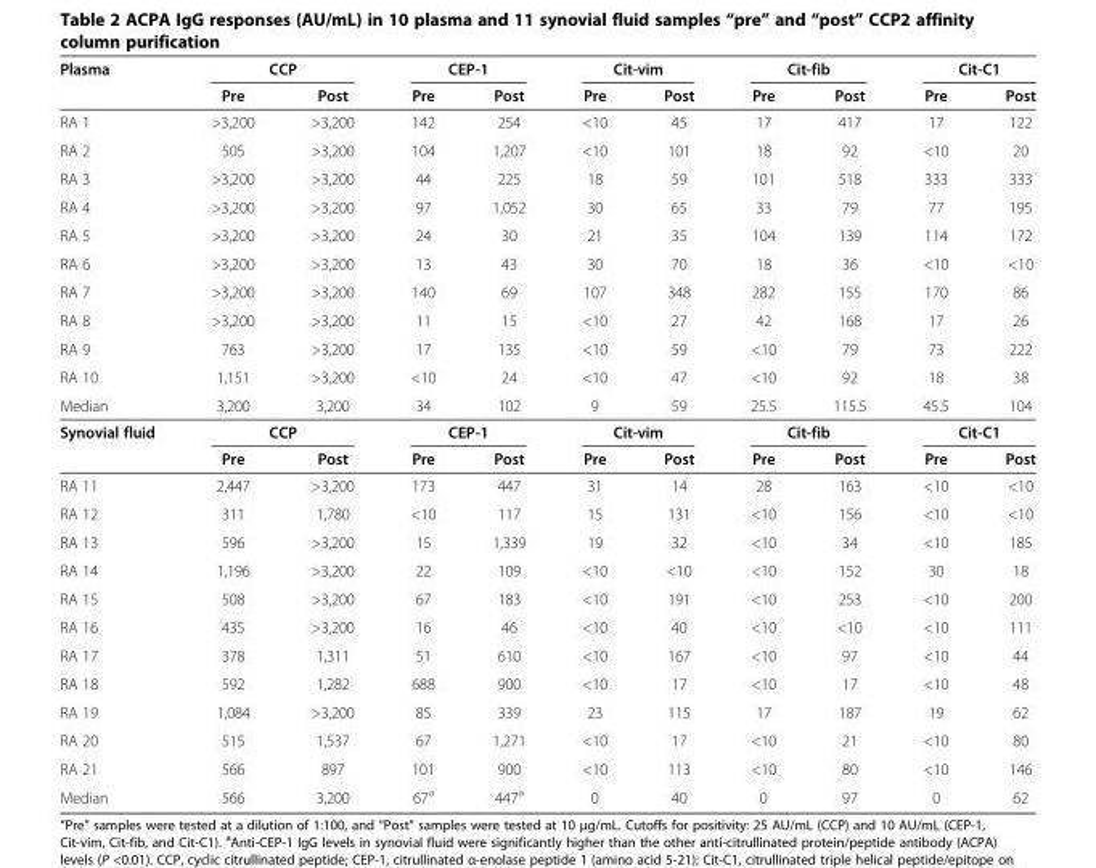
<table><thead><tr><td rowspan="2">Plasma</td><td colspan="2">CCP</td><td colspan="2">CEP-1</td><td colspan="2">Cit-vim</td><td colspan="2">Cit-fib</td><td colspan="2">Cit-C1</td></tr><tr><td>Pre</td><td>Post</td><td>Pre</td><td>Post</td><td>Pre</td><td>Post</td><td>Pre</td><td>Post</td><td>Pre</td><td>Post</td></tr></thead><tbody><tr><td>RA 1</td><td>&gt;3,200</td><td>&gt;3,200</td><td>142</td><td>254</td><td>&lt;10</td><td>45</td><td>17</td><td>417</td><td>17</td><td>122</td></tr><tr><td>RA 2</td><td>505</td><td>&gt;3,200</td><td>104</td><td>1,207</td><td>&lt;10</td><td>101</td><td>18</td><td>92</td><td>&lt;10</td><td>20</td></tr><tr><td>RA 3</td><td>&gt;3,200</td><td>&gt;3,200</td><td>44</td><td>225</td><td>18</td><td>59</td><td>101</td><td>518</td><td>333</td><td>333</td></tr><tr><td>RA 4</td><td>&gt;3,200</td><td>&gt;3,200</td><td>97</td><td>1,052</td><td>30</td><td>65</td><td>33</td><td>79</td><td>77</td><td>195</td></tr><tr><td>RA 5</td><td>&gt;3,200</td><td>&gt;3,200</td><td>24</td><td>30</td><td>21</td><td>35</td><td>104</td><td>139</td><td>114</td><td>172</td></tr><tr><td>RA 6</td><td>&gt;3,200</td><td>&gt;3,200</td><td>13</td><td>43</td><td>30</td><td>70</td><td>18</td><td>36</td><td>&lt;10</td><td>&lt;10</td></tr><tr><td>RA 7</td><td>&gt;3,200</td><td>&gt;3,200</td><td>140</td><td>69</td><td>107</td><td>348</td><td>282</td><td>155</td><td>170</td><td>86</td></tr><tr><td>RA 8</td><td>&gt;3,200</td><td>&gt;3,200</td><td>11</td><td>15</td><td>&lt;10</td><td>27</td><td>42</td><td>168</td><td>17</td><td>26</td></tr><tr><td>RA 9</td><td>763</td><td>&gt;3,200</td><td>17</td><td>135</td><td>&lt;10</td><td>59</td><td>&lt;10</td><td>79</td><td>73</td><td>222</td></tr><tr><td>RA 10</td><td>1,151</td><td>&gt;3,200</td><td>&lt;10</td><td>24</td><td>&lt;10</td><td>47</td><td>&lt;10</td><td>92</td><td>18</td><td>38</td></tr><tr><td>Median</td><td>3,200</td><td>3,200</td><td>34</td><td>102</td><td>9</td><td>59</td><td>25.5</td><td>115.5</td><td>45.5</td><td>104</td></tr><tr><td rowspan="2">Synovial fluid</td><td colspan="2">CCP</td><td colspan="2">CEP-1</td><td colspan="2">Cit-vim</td><td colspan="2">Cit-fib</td><td colspan="2">Cit-C1</td></tr><tr><td>Pre</td><td>Post</td><td>Pre</td><td>Post</td><td>Pre</td><td>Post</td><td>Pre</td><td>Post</td><td>Pre</td><td>Post</td></tr><tr><td>RA 11</td><td>2,447</td><td>&gt;3,200</td><td>173</td><td>447</td><td>31</td><td>14</td><td>28</td><td>163</td><td>&lt;10</td><td>&lt;10</td></tr><tr><td>RA 12</td><td>311</td><td>1,780</td><td>&lt;10</td><td>117</td><td>15</td><td>131</td><td>&lt;10</td><td>156</td><td>&lt;10</td><td>&lt;10</td></tr><tr><td>RA 13</td><td>596</td><td>&gt;3,200</td><td>15</td><td>1,339</td><td>19</td><td>32</td><td>&lt;10</td><td>34</td><td>&lt;10</td><td>185</td></tr><tr><td>RA 14</td><td>1,196</td><td>&gt;3,200</td><td>22</td><td>109</td><td>&lt;10</td><td>&lt;10</td><td>&lt;10</td><td>152</td><td>30</td><td>18</td></tr><tr><td>RA 15</td><td>508</td><td>&gt;3,200</td><td>67</td><td>183</td><td>&lt;10</td><td>191</td><td>&lt;10</td><td>253</td><td>&lt;10</td><td>200</td></tr><tr><td>RA 16</td><td>435</td><td>&gt;3,200</td><td>16</td><td>46</td><td>&lt;10</td><td>40</td><td>&lt;10</td><td>&lt;10</td><td>&lt;10</td><td>111</td></tr><tr><td>RA 17</td><td>378</td><td>1,311</td><td>51</td><td>610</td><td>&lt;10</td><td>167</td><td>&lt;10</td><td>97</td><td>&lt;10</td><td>44</td></tr><tr><td>RA 18</td><td>592</td><td>1,282</td><td>688</td><td>900</td><td>&lt;10</td><td>17</td><td>&lt;10</td><td>17</td><td>&lt;10</td><td>48</td></tr><tr><td>RA 19</td><td>1,084</td><td>&gt;3,200</td><td>85</td><td>339</td><td>23</td><td>115</td><td>17</td><td>187</td><td>19</td><td>62</td></tr><tr><td>RA 20</td><td>515</td><td>1,537</td><td>67</td><td>1,271</td><td>&lt;10</td><td>17</td><td>&lt;10</td><td>21</td><td>&lt;10</td><td>80</td></tr><tr><td>RA 21</td><td>566</td><td>897</td><td>101</td><td>900</td><td>&lt;10</td><td>113</td><td>&lt;10</td><td>80</td><td>&lt;10</td><td>146</td></tr><tr><td>Median</td><td>566</td><td>3,200</td><td>67<sup>a</sup></td><td>447<sup>a</sup></td><td>0</td><td>40</td><td>0</td><td>97</td><td>0</td><td>62</td></tr></tbody></table>